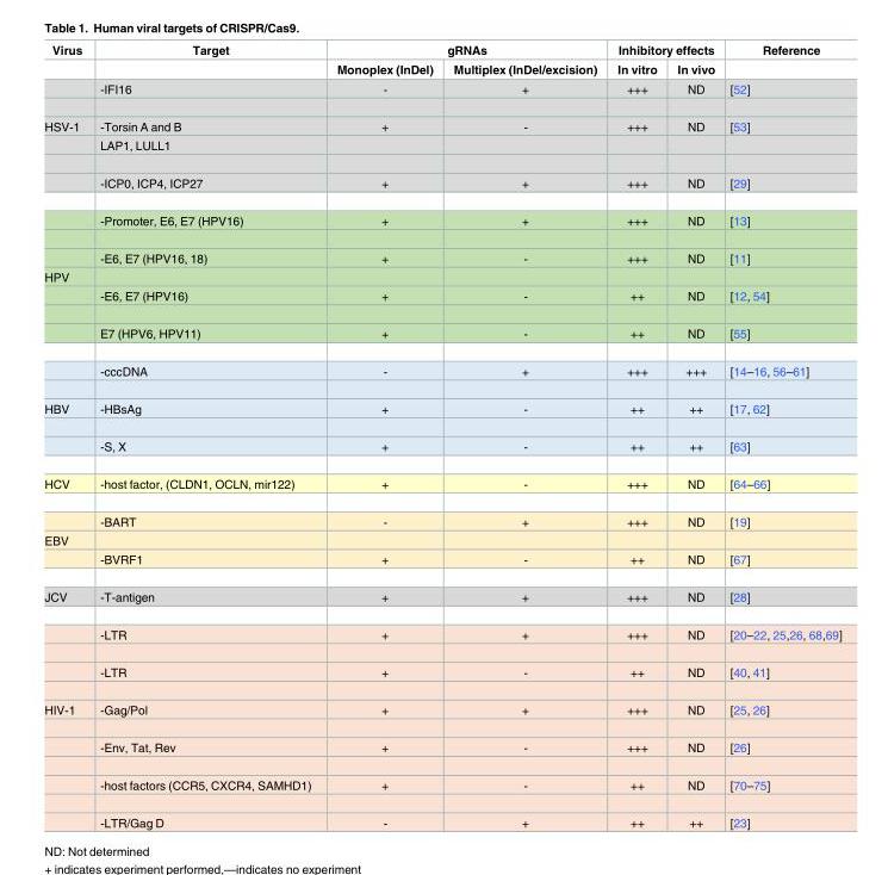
<table><thead><tr><td rowspan="2">Virus</td><td rowspan="2">Target</td><td colspan="2">gRNAs</td><td colspan="2">Inhibitory effects</td><td rowspan="2">Reference</td></tr><tr><td>Monoplex (InDel)</td><td>Multiplex (InDel/excision)</td><td>In vitro</td><td>In vivo</td></tr></thead><tbody><tr><td></td><td>-IFI16</td><td>-</td><td>+</td><td>+++</td><td>ND</td><td>[52]</td></tr><tr><td rowspan="5">HSV-1</td><td>-Torsin A and B</td><td>+</td><td>-</td><td>+++</td><td>ND</td><td>[53]</td></tr><tr><td>LAP1, LULL1</td><td></td><td></td><td></td><td></td><td></td></tr><tr><td>-ICP0, ICP4, ICP27</td><td>+</td><td>+</td><td>+++</td><td>ND</td><td>[29]</td></tr><tr><td>-Promoter, E6, E7 (HPV16)</td><td>+</td><td>+</td><td>+++</td><td>ND</td><td>[13]</td></tr><tr><td>-E6, E7 (HPV16, 18)</td><td>+</td><td>-</td><td>+++</td><td>ND</td><td>[11]</td></tr><tr><td colspan="7">HPV</td></tr><tr><td></td><td>-E6, E7 (HPV16)</td><td>+</td><td>-</td><td>++</td><td>ND</td><td>[12, 54]</td></tr><tr><td></td><td>E7 (HPV6, HPV11)</td><td>+</td><td>-</td><td>++</td><td>ND</td><td>[55]</td></tr><tr><td></td><td>-cccDNA</td><td>-</td><td>+</td><td>+++</td><td>+++</td><td>[14–16, 56–61]</td></tr><tr><td rowspan="2">HBV</td><td>-HBsAg</td><td>+</td><td>-</td><td>++</td><td>++</td><td>[17, 62]</td></tr><tr><td>-S, X</td><td>+</td><td>-</td><td>++</td><td>++</td><td>[63]</td></tr><tr><td rowspan="2">HCV</td><td>-host factor, (CLDN1, OCLN, mir122)</td><td>+</td><td>-</td><td>+++</td><td>ND</td><td>[64–66]</td></tr><tr><td>-BART</td><td>-</td><td>+</td><td>+++</td><td>ND</td><td>[19]</td></tr><tr><td colspan="7">EBV</td></tr><tr><td></td><td>-BVRF1</td><td>+</td><td>-</td><td>++</td><td>ND</td><td>[67]</td></tr><tr><td rowspan="3">JCV</td><td>-T-antigen</td><td>+</td><td>+</td><td>+++</td><td>ND</td><td>[28]</td></tr><tr><td>-LTR</td><td>+</td><td>+</td><td>+++</td><td>ND</td><td>[20–22, 25,26, 68,69]</td></tr><tr><td>-LTR</td><td>+</td><td>-</td><td>++</td><td>ND</td><td>[40, 41]</td></tr><tr><td rowspan="4">HIV-1</td><td>-Gag/Pol</td><td>+</td><td>+</td><td>+++</td><td>ND</td><td>[25, 26]</td></tr><tr><td>-Env, Tat, Rev</td><td>+</td><td>-</td><td>+++</td><td>ND</td><td>[26]</td></tr><tr><td>-host factors (CCR5, CXCR4, SAMHD1)</td><td>+</td><td>-</td><td>++</td><td>ND</td><td>[70–75]</td></tr><tr><td>-LTR/Gag D</td><td>-</td><td>+</td><td>++</td><td>++</td><td>[23]</td></tr></tbody></table>